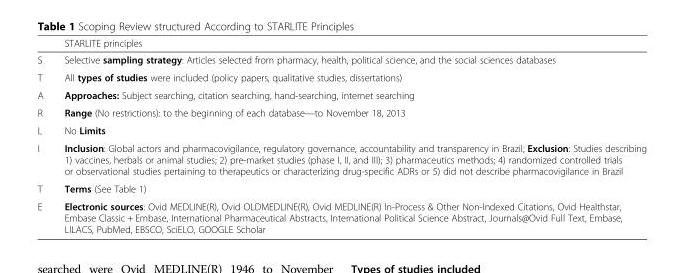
<table><thead><tr><td></td><td>STARLITE principles</td></tr></thead><tbody><tr><td>S</td><td>Selective sampling strategy: Articles selected from pharmacy, health, political science, and the social sciences databases</td></tr><tr><td>T</td><td>All types of studies were included (policy papers, qualitative studies, dissertations)</td></tr><tr><td>A</td><td>Approaches: Subject searching, citation searching, hand-searching, internet searching</td></tr><tr><td>R</td><td>Range (No restrictions): to the beginning of each database—to November 18, 2013</td></tr><tr><td>L</td><td>No Limits</td></tr><tr><td>I</td><td>Inclusion: Global actors and pharmacovigilance, regulatory governance, accountability and transparency in Brazil; Exclusion: Studies describing 1) vaccines, herbals or animal studies; 2) pre-market studies (phase I, II, and III); 3) pharmaceutics methods; 4) randomized controlled trials or observational studies pertaining to therapeutics or characterizing drug-specific ADRs or 5) did not describe pharmacovigilance in Brazil</td></tr><tr><td>T</td><td>Terms (See Table 1)</td></tr><tr><td>E</td><td>Electronic sources: Ovid MEDLINE(R), Ovid OLDMEDLINE(R), Ovid MEDLINE(R) In-Process &amp; Other Non-Indexed Citations, Ovid Healthstar, Embase Classic + Embase, International Pharmaceutical Abstracts, International Political Science Abstract, Journals@Ovid Full Text, Embase, LILACS, PubMed, EBSCO, SciELO, GOOGLE Scholar</td></tr></tbody></table>